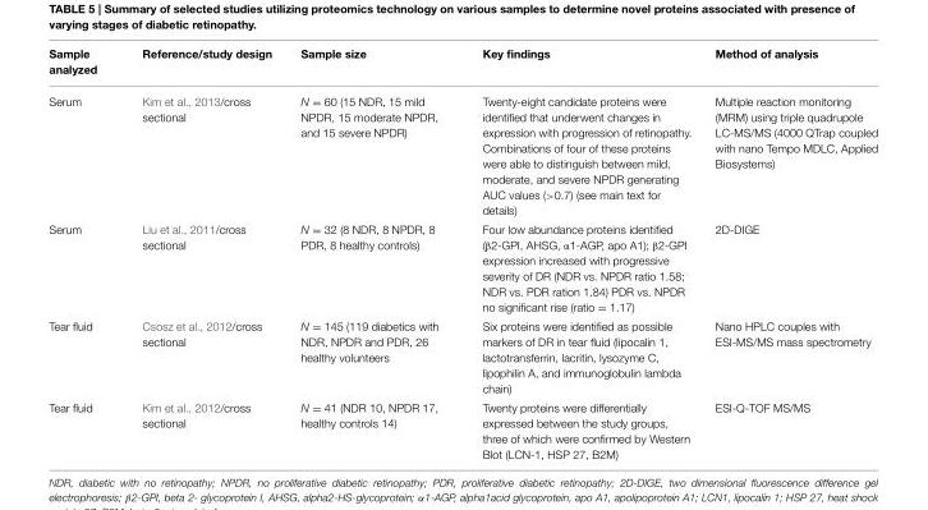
<table><thead><tr><td>Sample analyzed</td><td>Reference/study design</td><td>Sample size</td><td>Key findings</td><td>Method of analysis</td></tr></thead><tbody><tr><td>Serum</td><td>Kim et al., 2013/cross sectional</td><td>N = 60 (15 NDR, 15 mild NPDR, 15 moderate NPDR, and 15 severe NPDR)</td><td>Twenty-eight candidate proteins were identified that underwent changes in expression with progression of retinopathy. Combinations of four of these proteins were able to distinguish between mild, moderate, and severe NPDR generating AUC values (&gt;0.7) (see main text for details)</td><td>Multiple reaction monitoring (MRM) using triple quadrupole LC-MS/MS (4000 QTrap coupled with nano Tempo MDLC, Applied Biosystems)</td></tr><tr><td>Serum</td><td>Liu et al., 2011/cross sectional</td><td>N = 32 (8 NDR, 8 NPDR, 8 PDR, 8 healthy controls)</td><td>Four low abundance proteins identified (β2-GPI, AHSG, α1-AGP, apo A1); β2-GPI expression increased with progressive severity of DR (NDR vs. NPDR ratio 1.58; NDR vs. PDR ration 1.84) PDR vs. NPDR no significant rise (ratio = 1.17)</td><td>2D-DIGE</td></tr><tr><td>Tear fluid</td><td>Csosz et al., 2012/cross sectional</td><td>N = 145 (119 diabetics with NDR, NPDR and PDR, 26 healthy volunteers</td><td>Six proteins were identified as possible markers of DR in tear fluid (lipocalin 1, lactotransferrin, lacritin, lysozyme C, lipophilin A, and immunoglobulin lambda chain)</td><td>Nano HPLC couples with ESI-MS/MS mass spectrometry</td></tr><tr><td>Tear fluid</td><td>Kim et al., 2012/cross sectional</td><td>N = 41 (NDR 10, NPDR 17, healthy controls 14)</td><td>Twenty proteins were differentially expressed between the study groups, three of which were confirmed by Western Blot (LCN-1, HSP 27, B2M)</td><td>ESI-Q-TOF MS/MS</td></tr></tbody></table>